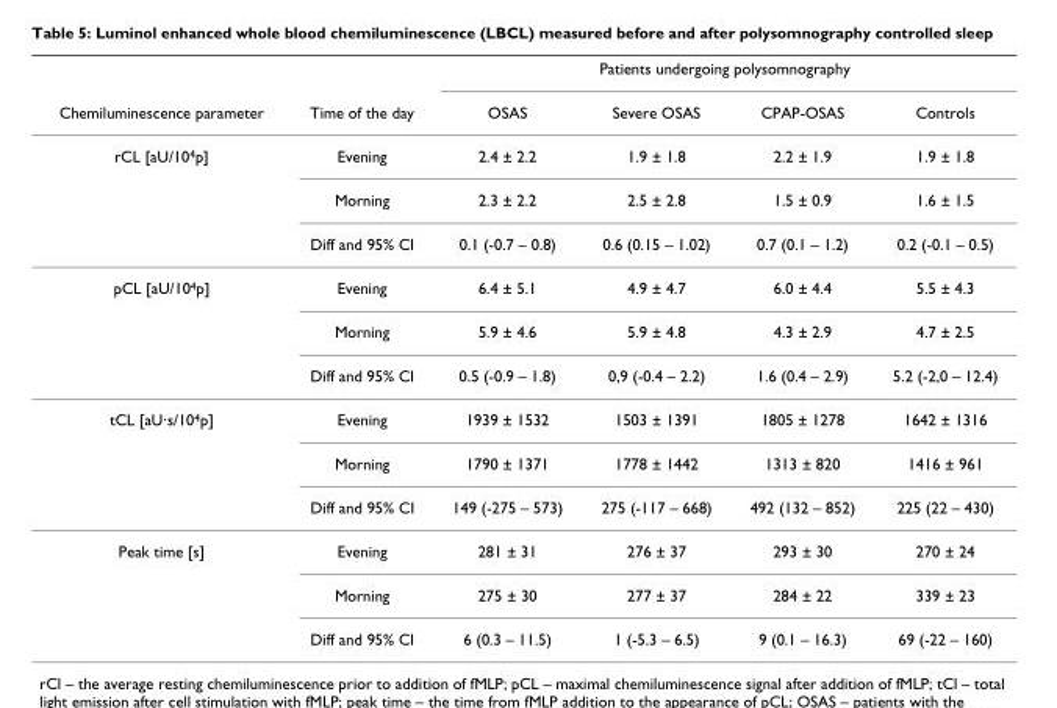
<table><thead><tr><td rowspan="2">Chemiluminescence parameter</td><td rowspan="2">Time of the day</td><td colspan="4">Patients undergoing polysomnography</td></tr><tr><td>OSAS</td><td>Severe OSAS</td><td>CPAP-OSAS</td><td>Controls</td></tr></thead><tbody><tr><td rowspan="3">rCL [aU/10<sup>4</sup>p]</td><td>Evening</td><td>2.4 ± 2.2</td><td>1.9 ± 1.8</td><td>2.2 ± 1.9</td><td>1.9 ± 1.8</td></tr><tr><td>Morning</td><td>2.3 ± 2.2</td><td>2.5 ± 2.8</td><td>1.5 ± 0.9</td><td>1.6 ± 1.5</td></tr><tr><td>Diff and 95% CI</td><td>0.1 (-0.7 – 0.8)</td><td>0.6 (0.15 – 1.02)</td><td>0.7 (0.1 – 1.2)</td><td>0.2 (-0.1 – 0.5)</td></tr><tr><td rowspan="3">pCL [aU/10<sup>4</sup>p]</td><td>Evening</td><td>6.4 ± 5.1</td><td>4.9 ± 4.7</td><td>6.0 ± 4.4</td><td>5.5 ± 4.3</td></tr><tr><td>Morning</td><td>5.9 ± 4.6</td><td>5.9 ± 4.8</td><td>4.3 ± 2.9</td><td>4.7 ± 2.5</td></tr><tr><td>Diff and 95% CI</td><td>0.5 (-0.9 – 1.8)</td><td>0,9 (-0.4 – 2.2)</td><td>1.6 (0.4 – 2.9)</td><td>5.2 (-2,0 – 12.4)</td></tr><tr><td rowspan="3">tCL [aU·s/10<sup>4</sup>p]</td><td>Evening</td><td>1939 ± 1532</td><td>1503 ± 1391</td><td>1805 ± 1278</td><td>1642 ± 1316</td></tr><tr><td>Morning</td><td>1790 ± 1371</td><td>1778 ± 1442</td><td>1313 ± 820</td><td>1416 ± 961</td></tr><tr><td>Diff and 95% CI</td><td>149 (-275 – 573)</td><td>275 (-117 – 668)</td><td>492 (132 – 852)</td><td>225 (22 – 430)</td></tr><tr><td rowspan="3">Peak time [s]</td><td>Evening</td><td>281 ± 31</td><td>276 ± 37</td><td>293 ± 30</td><td>270 ± 24</td></tr><tr><td>Morning</td><td>275 ± 30</td><td>277 ± 37</td><td>284 ± 22</td><td>339 ± 23</td></tr><tr><td>Diff and 95% CI</td><td>6 (0.3 – 11.5)</td><td>1 (-5.3 – 6.5)</td><td>9 (0.1 – 16.3)</td><td>69 (-22 – 160)</td></tr></tbody></table>